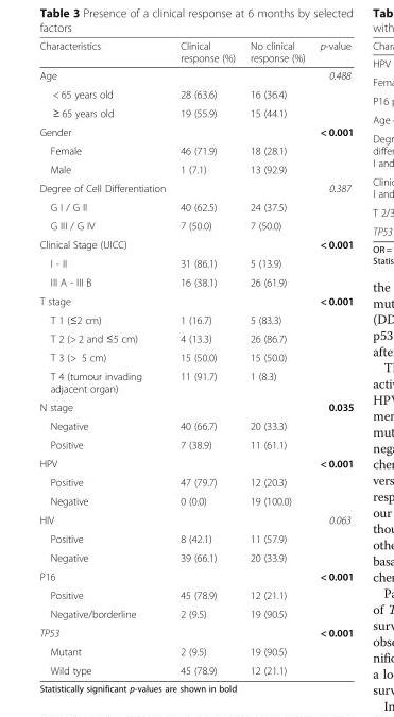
<table><thead><tr><td>Characteristics</td><td>Clinical response (%)</td><td>No clinical response (%)</td><td>p-value</td></tr></thead><tbody><tr><td>Age</td><td></td><td></td><td>0.488</td></tr><tr><td>&lt; 65 years old</td><td>28 (63.6)</td><td>16 (36.4)</td><td></td></tr><tr><td>≥ 65 years old</td><td>19 (55.9)</td><td>15 (44.1)</td><td></td></tr><tr><td>Gender</td><td></td><td></td><td>&lt; 0.001</td></tr><tr><td>Female</td><td>46 (71.9)</td><td>18 (28.1)</td><td></td></tr><tr><td>Male</td><td>1 (7.1)</td><td>13 (92.9)</td><td></td></tr><tr><td>Degree of Cell Differentiation</td><td></td><td></td><td>0.387</td></tr><tr><td>G I / G II</td><td>40 (62.5)</td><td>24 (37.5)</td><td></td></tr><tr><td>G III / G IV</td><td>7 (50.0)</td><td>7 (50.0)</td><td></td></tr><tr><td>Clinical Stage (UICC)</td><td></td><td></td><td>&lt; 0.001</td></tr><tr><td>I - II</td><td>31 (86.1)</td><td>5 (13.9)</td><td></td></tr><tr><td>III A - III B</td><td>16 (38.1)</td><td>26 (61.9)</td><td></td></tr><tr><td>T stage</td><td></td><td></td><td>&lt; 0.001</td></tr><tr><td>T 1 (≤2 cm)</td><td>1 (16.7)</td><td>5 (83.3)</td><td></td></tr><tr><td>T 2 (&gt; 2 and ≤5 cm)</td><td>4 (13.3)</td><td>26 (86.7)</td><td></td></tr><tr><td>T 3 (&gt; 5 cm)</td><td>15 (50.0)</td><td>15 (50.0)</td><td></td></tr><tr><td>T 4 (tumour invading adjacent organ)</td><td>11 (91.7)</td><td>1 (8.3)</td><td></td></tr><tr><td>N stage</td><td></td><td></td><td>0.035</td></tr><tr><td>Negative</td><td>40 (66.7)</td><td>20 (33.3)</td><td></td></tr><tr><td>Positive</td><td>7 (38.9)</td><td>11 (61.1)</td><td></td></tr><tr><td>HPV</td><td></td><td></td><td>&lt; 0.001</td></tr><tr><td>Positive</td><td>47 (79.7)</td><td>12 (20.3)</td><td></td></tr><tr><td>Negative</td><td>0 (0.0)</td><td>19 (100.0)</td><td></td></tr><tr><td>HIV</td><td></td><td></td><td>0.063</td></tr><tr><td>Positive</td><td>8 (42.1)</td><td>11 (57.9)</td><td></td></tr><tr><td>Negative</td><td>39 (66.1)</td><td>20 (33.9)</td><td></td></tr><tr><td>P16</td><td></td><td></td><td>&lt; 0.001</td></tr><tr><td>Positive</td><td>45 (78.9)</td><td>12 (21.1)</td><td></td></tr><tr><td>Negative/borderline</td><td>2 (9.5)</td><td>19 (90.5)</td><td></td></tr><tr><td>TP53</td><td></td><td></td><td>&lt; 0.001</td></tr><tr><td>Mutant</td><td>2 (9.5)</td><td>19 (90.5)</td><td></td></tr><tr><td>Wild type</td><td>45 (78.9)</td><td>12 (21.1)</td><td></td></tr></tbody></table>